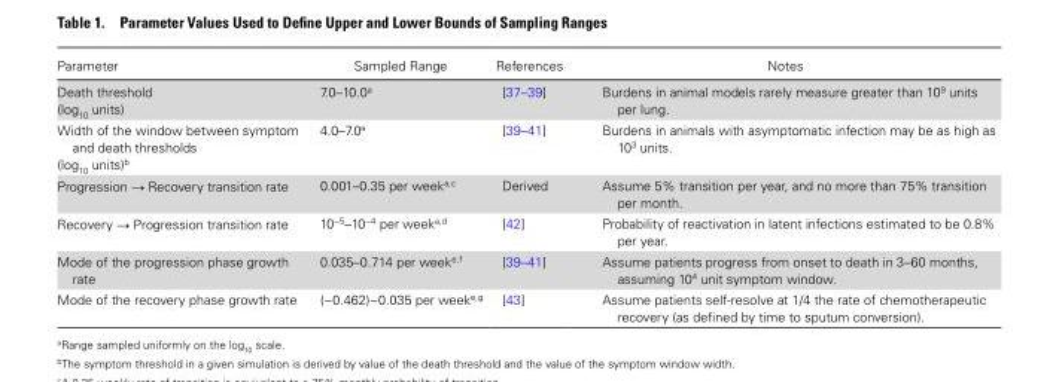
<table><thead><tr><td>Parameter</td><td>Sampled Range</td><td>References</td><td>Notes</td></tr></thead><tbody><tr><td>Death threshold (log<sub>10</sub> units)</td><td>7.0–10.0<sup>a</sup></td><td>[37–39]</td><td>Burdens in animal models rarely measure greater than 10<sup>9</sup> units per lung.</td></tr><tr><td>Width of the window between symptom and death thresholds (log<sub>10</sub> units)<sup>b</sup></td><td>4.0–7.0<sup>a</sup></td><td>[39–41]</td><td>Burdens in animals with asymptomatic infection may be as high as 10<sup>3</sup> units.</td></tr><tr><td>Progression → Recovery transition rate</td><td>0.001–0.35 per week<sup>a,c</sup></td><td>Derived</td><td>Assume 5% transition per year, and no more than 75% transition per month.</td></tr><tr><td>Recovery → Progression transition rate</td><td>10<sup>−5</sup>–10<sup>−4</sup> per week<sup>a,d</sup></td><td>[42]</td><td>Probability of reactivation in latent infections estimated to be 0.8% per year.</td></tr><tr><td>Mode of the progression phase growth rate</td><td>0.035–0.714 per week<sup>e,f</sup></td><td>[39–41]</td><td>Assume patients progress from onset to death in 3–60 months, assuming 10<sup>4</sup> unit symptom window.</td></tr><tr><td>Mode of the recovery phase growth rate</td><td>(−0.462)−0.035 per week<sup>e,g</sup></td><td>[43]</td><td>Assume patients self-resolve at 1/4 the rate of chemotherapeutic recovery (as defined by time to sputum conversion).</td></tr></tbody></table>